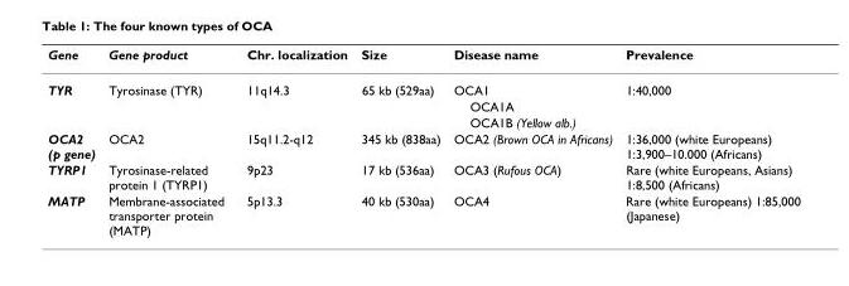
<table><thead><tr><td>Gene</td><td>Gene product</td><td>Chr. localization</td><td>Size</td><td>Disease name</td><td>Prevalence</td></tr></thead><tbody><tr><td rowspan="3">TYR</td><td>Tyrosinase (TYR)</td><td>11q14.3</td><td>65 kb (529aa)</td><td>OCA1</td><td>1:40,000</td></tr><tr><td></td><td></td><td></td><td>OCA1A</td><td></td></tr><tr><td></td><td></td><td></td><td>OCA1B (Yellow alb.)</td><td></td></tr><tr><td>OCA2 (p gene)</td><td>OCA2</td><td>15q11.2-q12</td><td>345 kb (838aa)</td><td>OCA2 (Brown OCA in Africans)</td><td>1:36,000 (white Europeans) 1:3,900–10.000 (Africans)</td></tr><tr><td>TYRP1</td><td>Tyrosinase-related protein 1 (TYRP1)</td><td>9p23</td><td>17 kb (536aa)</td><td>OCA3 (Rufous OCA)</td><td>Rare (white Europeans, Asians) 1:8,500 (Africans)</td></tr><tr><td>MATP</td><td>Membrane-associated transporter protein (MATP)</td><td>5p13.3</td><td>40 kb (530aa)</td><td>OCA4</td><td>Rare (white Europeans) 1:85,000 (Japanese)</td></tr></tbody></table>